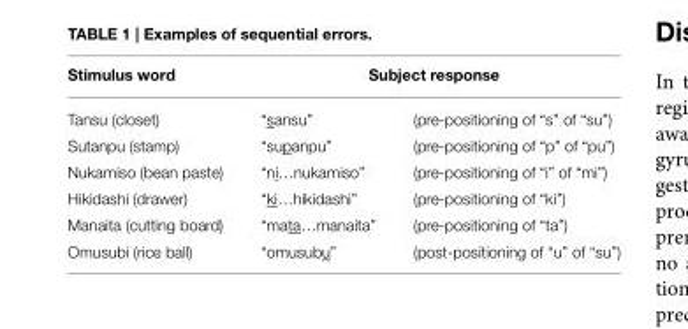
<table><thead><tr><td rowspan="2">Stimulus word Tansu (closet)</td><td colspan="2">Subject response</td></tr><tr><td>“sansu”</td><td>(pre-positioning of “s” of “su”)</td></tr></thead><tbody><tr><td>Sutanpu (stamp)</td><td>“supanpu”</td><td>(pre-positioning of “p” of “pu”)</td></tr><tr><td>Nukamiso (bean paste)</td><td>“ni…nukamiso”</td><td>(pre-positioning of “i” of “mi”)</td></tr><tr><td>Hikidashi (drawer)</td><td>“ki…hikidashi”</td><td>(pre-positioning of “ki”)</td></tr><tr><td>Manaita (cutting board)</td><td>“mata…manaita”</td><td>(pre-positioning of “ta”)</td></tr><tr><td>Omusubi (rice ball)</td><td>“omusubu”</td><td>(post-positioning of “u” of “su”)</td></tr></tbody></table>